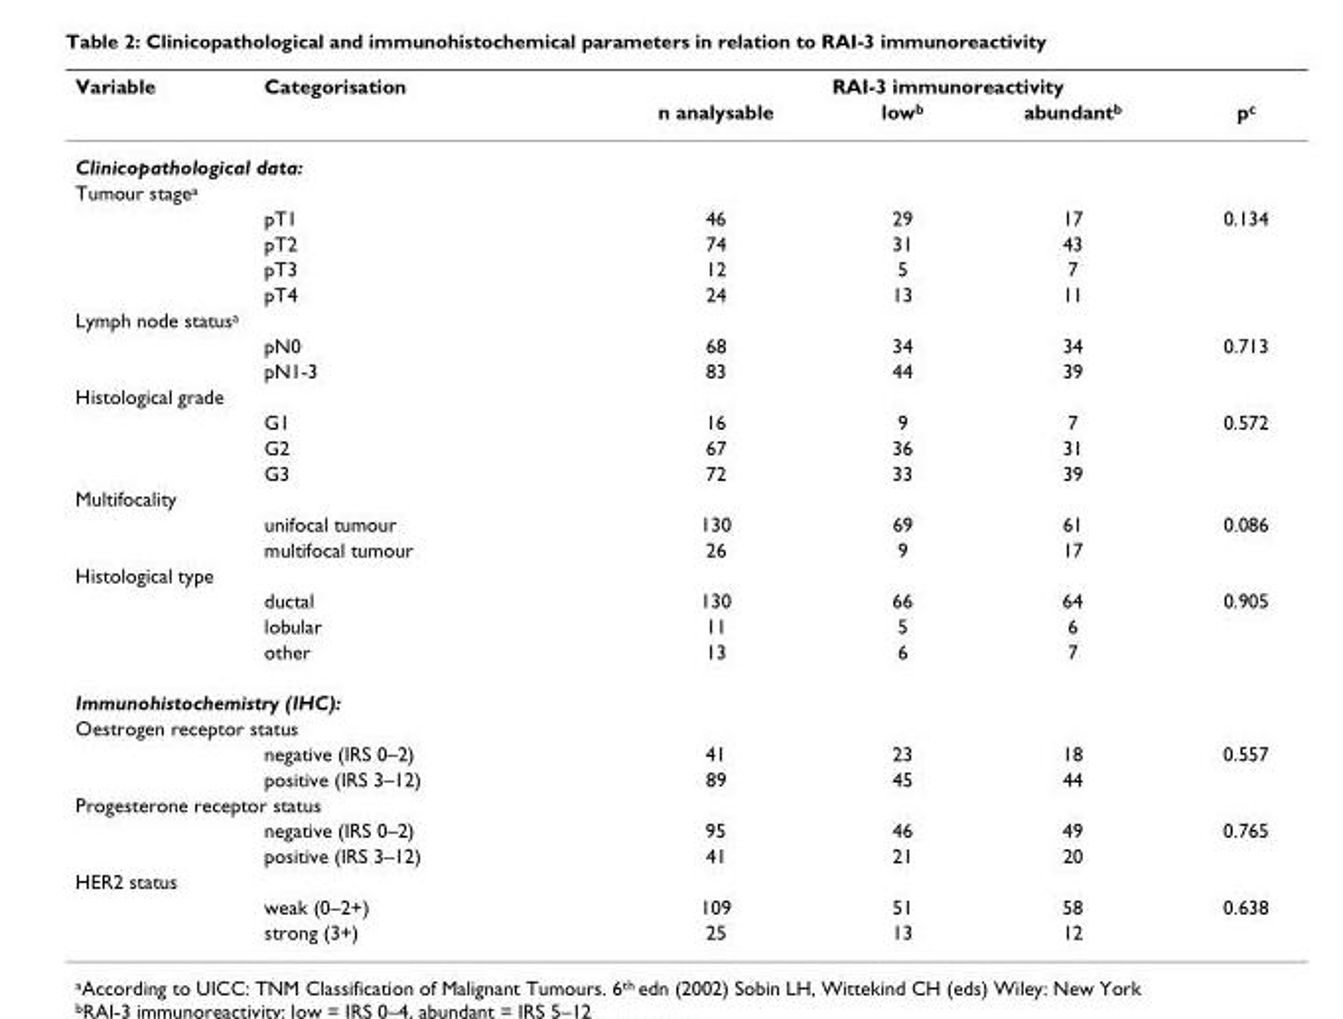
<table><thead><tr><td rowspan="2">Variable</td><td rowspan="2">Categorisation</td><td colspan="4">RAI-3 immunoreactivity</td></tr><tr><td>n analysable</td><td>low<sup>b</sup></td><td>abundant<sup>b</sup></td><td>p<sup>c</sup></td></tr></thead><tbody><tr><td colspan="6">Clinicopathological data:</td></tr><tr><td colspan="6">Tumour stage<sup>a</sup></td></tr><tr><td></td><td>pT1</td><td>46</td><td>29</td><td>17</td><td>0.134</td></tr><tr><td></td><td>pT2</td><td>74</td><td>31</td><td>43</td><td></td></tr><tr><td></td><td>pT3</td><td>12</td><td>5</td><td>7</td><td></td></tr><tr><td></td><td>pT4</td><td>24</td><td>13</td><td>11</td><td></td></tr><tr><td colspan="6">Lymph node status<sup>a</sup></td></tr><tr><td></td><td>pN0</td><td>68</td><td>34</td><td>34</td><td>0.713</td></tr><tr><td></td><td>pN1-3</td><td>83</td><td>44</td><td>39</td><td></td></tr><tr><td colspan="6">Histological grade</td></tr><tr><td></td><td>G1</td><td>16</td><td>9</td><td>7</td><td>0.572</td></tr><tr><td></td><td>G2</td><td>67</td><td>36</td><td>31</td><td></td></tr><tr><td></td><td>G3</td><td>72</td><td>33</td><td>39</td><td></td></tr><tr><td colspan="6">Multifocality</td></tr><tr><td></td><td>unifocal tumour</td><td>130</td><td>69</td><td>61</td><td>0.086</td></tr><tr><td></td><td>multifocal tumour</td><td>26</td><td>9</td><td>17</td><td></td></tr><tr><td colspan="6">Histological type</td></tr><tr><td></td><td>ductal</td><td>130</td><td>66</td><td>64</td><td>0.905</td></tr><tr><td></td><td>lobular</td><td>11</td><td>5</td><td>6</td><td></td></tr><tr><td></td><td>other</td><td>13</td><td>6</td><td>7</td><td></td></tr><tr><td colspan="6">Immunohistochemistry (IHC):</td></tr><tr><td colspan="6">Oestrogen receptor status</td></tr><tr><td></td><td>negative (IRS 0–2)</td><td>41</td><td>23</td><td>18</td><td>0.557</td></tr><tr><td></td><td>positive (IRS 3–12)</td><td>89</td><td>45</td><td>44</td><td></td></tr><tr><td colspan="6">Progesterone receptor status</td></tr><tr><td></td><td>negative (IRS 0–2)</td><td>95</td><td>46</td><td>49</td><td>0.765</td></tr><tr><td></td><td>positive (IRS 3–12)</td><td>41</td><td>21</td><td>20</td><td></td></tr><tr><td colspan="6">HER2 status</td></tr><tr><td></td><td>weak (0–2+)</td><td>109</td><td>51</td><td>58</td><td>0.638</td></tr><tr><td></td><td>strong (3+)</td><td>25</td><td>13</td><td>12</td><td></td></tr></tbody></table>